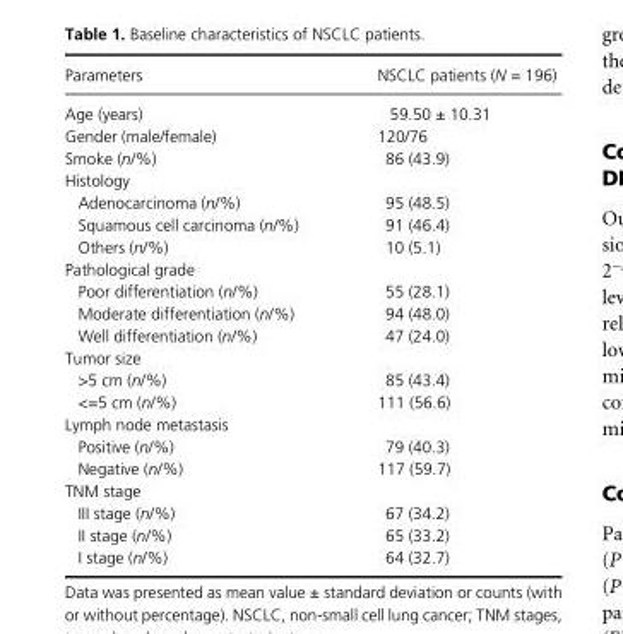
<table><thead><tr><td>Parameters</td><td>NSCLC patients (N = 196)</td></tr></thead><tbody><tr><td>Age (years)</td><td>59.50 ± 10.31</td></tr><tr><td>Gender (male/female)</td><td>120/76</td></tr><tr><td>Smoke (n/%)</td><td>86 (43.9)</td></tr><tr><td colspan="2">Histology</td></tr><tr><td>Adenocarcinoma (n/%)</td><td>95 (48.5)</td></tr><tr><td>Squamous cell carcinoma (n/%)</td><td>91 (46.4)</td></tr><tr><td>Others (n/%)</td><td>10 (5.1)</td></tr><tr><td colspan="2">Pathological grade</td></tr><tr><td>Poor differentiation (n/%)</td><td>55 (28.1)</td></tr><tr><td>Moderate differentiation (n/%)</td><td>94 (48.0)</td></tr><tr><td>Well differentiation (n/%)</td><td>47 (24.0)</td></tr><tr><td colspan="2">Tumor size</td></tr><tr><td>&gt;5 cm (n/%)</td><td>85 (43.4)</td></tr><tr><td>&lt;=5 cm (n/%)</td><td>111 (56.6)</td></tr><tr><td colspan="2">Lymph node metastasis</td></tr><tr><td>Positive (n/%)</td><td>79 (40.3)</td></tr><tr><td>Negative (n/%)</td><td>117 (59.7)</td></tr><tr><td colspan="2">TNM stage</td></tr><tr><td>III stage (n/%)</td><td>67 (34.2)</td></tr><tr><td>II stage (n/%)</td><td>65 (33.2)</td></tr><tr><td>I stage (n/%)</td><td>64 (32.7)</td></tr></tbody></table>